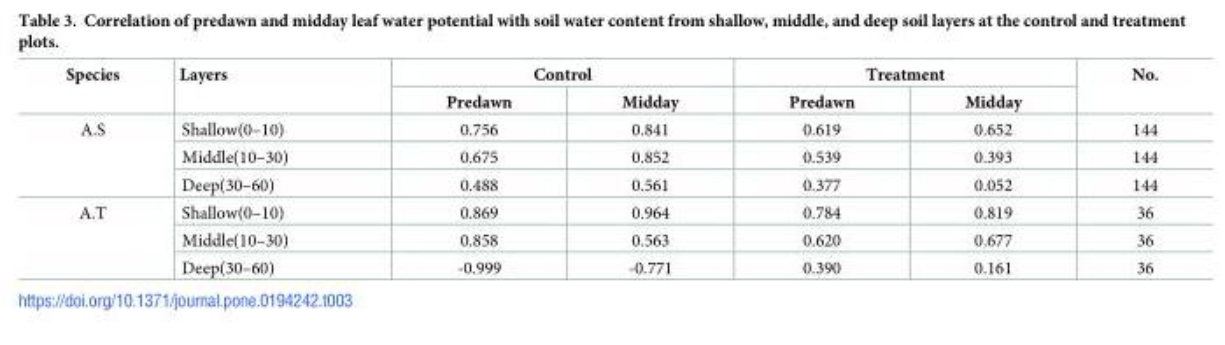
<table><thead><tr><td rowspan="2">Species</td><td rowspan="2">Layers</td><td colspan="2">Control</td><td colspan="2">Treatment</td><td rowspan="2">No.</td></tr><tr><td>Predawn</td><td>Midday</td><td>Predawn</td><td>Midday</td></tr></thead><tbody><tr><td rowspan="3">A.S</td><td>Shallow(0–10)</td><td>0.756</td><td>0.841</td><td>0.619</td><td>0.652</td><td>144</td></tr><tr><td>Middle(10–30)</td><td>0.675</td><td>0.852</td><td>0.539</td><td>0.393</td><td>144</td></tr><tr><td>Deep(30–60)</td><td>0.488</td><td>0.561</td><td>0.377</td><td>0.052</td><td>144</td></tr><tr><td rowspan="3">A.T</td><td>Shallow(0–10)</td><td>0.869</td><td>0.964</td><td>0.784</td><td>0.819</td><td>36</td></tr><tr><td>Middle(10–30)</td><td>0.858</td><td>0.563</td><td>0.620</td><td>0.677</td><td>36</td></tr><tr><td>Deep(30–60)</td><td>-0.999</td><td>-0.771</td><td>0.390</td><td>0.161</td><td>36</td></tr></tbody></table>